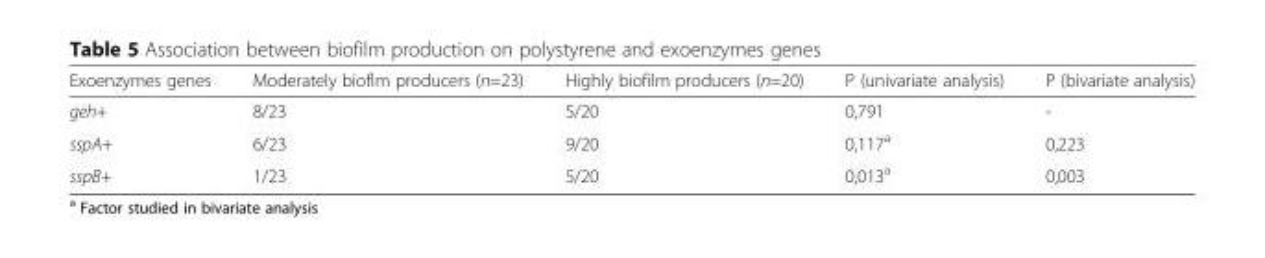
<table><thead><tr><td>Exoenzymes genes</td><td>Moderately bioflm producers (n=23)</td><td>Highly biofilm producers (n=20)</td><td>P (univariate analysis)</td><td>P (bivariate analysis)</td></tr></thead><tbody><tr><td>geh+</td><td>8/23</td><td>5/20</td><td>0,791</td><td>-</td></tr><tr><td>sspA+</td><td>6/23</td><td>9/20</td><td>0,117<sup>a</sup></td><td>0,223</td></tr><tr><td>sspB+</td><td>1/23</td><td>5/20</td><td>0,013<sup>a</sup></td><td>0,003</td></tr></tbody></table>